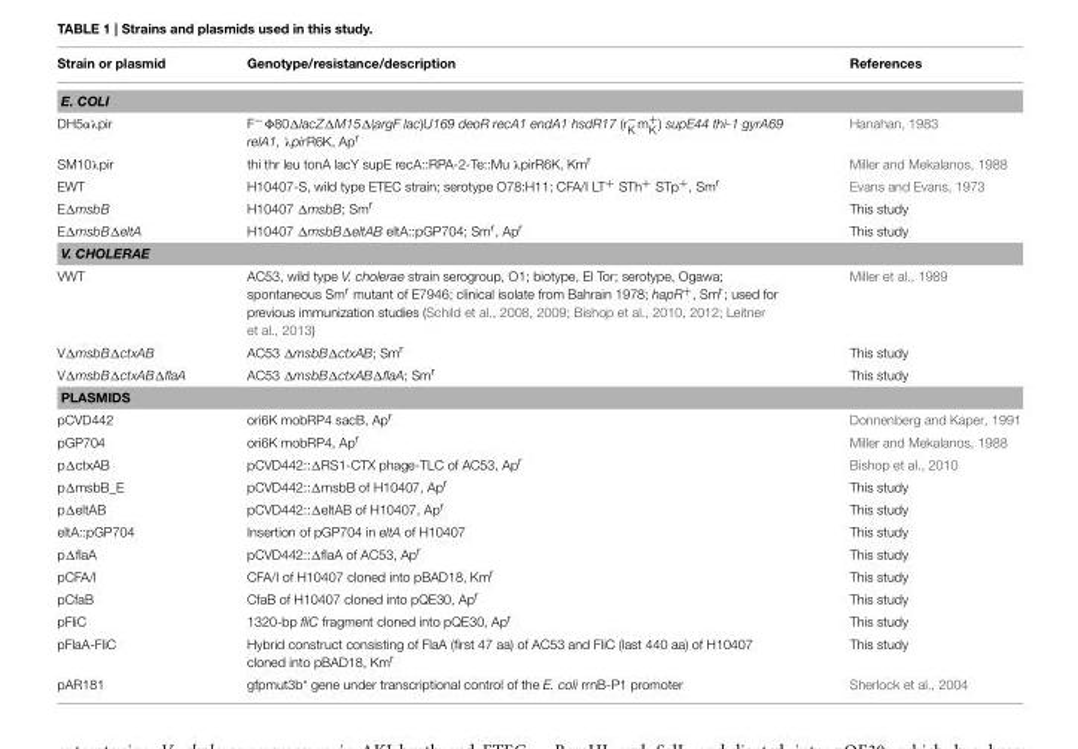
<table><thead><tr><td>Strain or plasmid</td><td>Genotype/resistance/description</td><td>References</td></tr></thead><tbody><tr><td colspan="3">E. COLI</td></tr><tr><td>DH5αλpir</td><td>F<sup>−</sup>Φ80ΔlacZΔM15Δ(argF lac)U169 deoR recA1 endA1 hsdR17 (r<sup>−</sup> <sub>K</sub> m<sup>+</sup> <sub>K</sub> ) supE44 thi-1 gyrA69 relA1, λpirR6K, Ap<sup>r</sup></td><td>Hanahan, 1983</td></tr><tr><td>SM10λpir</td><td>thi thr leu tonA lacY supE recA::RPA-2-Te::Mu λpirR6K, Km<sup>r</sup></td><td>Miller and Mekalanos, 1988</td></tr><tr><td>EWT</td><td>H10407-S, wild type ETEC strain; serotype O78:H11; CFA/I LT<sup>+</sup> STh<sup>+</sup> STp<sup>+</sup>, Sm<sup>r</sup></td><td>Evans and Evans, 1973</td></tr><tr><td>EΔmsbB</td><td>H10407 ΔmsbB; Sm<sup>r</sup></td><td>This study</td></tr><tr><td>EΔmsbBΔeltA</td><td>H10407 ΔmsbBΔeltAB eltA::pGP704; Sm<sup>r</sup>, Ap<sup>r</sup></td><td>This study</td></tr><tr><td colspan="3">V. CHOLERAE</td></tr><tr><td>VWT</td><td>AC53, wild type V. cholerae strain serogroup, O1; biotype, El Tor; serotype, Ogawa; spontaneous Sm<sup>r</sup> mutant of E7946; clinical isolate from Bahrain 1978; hapR<sup>+</sup>, Sm<sup>r</sup>; used for previous immunization studies (Schild et al., 2008, 2009; Bishop et al., 2010, 2012; Leitner et al., 2013)</td><td>Miller et al., 1989</td></tr><tr><td>VΔmsbBΔctxAB</td><td>AC53 ΔmsbBΔctxAB; Sm<sup>r</sup></td><td>This study</td></tr><tr><td>VΔmsbBΔctxABΔflaA</td><td>AC53 ΔmsbBΔctxABΔflaA; Sm<sup>r</sup></td><td>This study</td></tr><tr><td colspan="3">PLASMIDS</td></tr><tr><td>pCVD442</td><td>ori6K mobRP4 sacB, Ap<sup>r</sup></td><td>Donnenberg and Kaper, 1991</td></tr><tr><td>pGP704</td><td>ori6K mobRP4, Ap<sup>r</sup></td><td>Miller and Mekalanos, 1988</td></tr><tr><td>pΔctxAB</td><td>pCVD442::ΔRS1-CTX phage-TLC of AC53, Ap<sup>r</sup></td><td>Bishop et al., 2010</td></tr><tr><td>pΔmsbB_E</td><td>pCVD442::ΔmsbB of H10407, Ap<sup>r</sup></td><td>This study</td></tr><tr><td>pΔeltAB</td><td>pCVD442::ΔeltAB of H10407, Ap<sup>r</sup></td><td>This study</td></tr><tr><td>eltA::pGP704</td><td>Insertion of pGP704 in eltA of H10407</td><td>This study</td></tr><tr><td>pΔflaA</td><td>pCVD442::ΔflaA of AC53, Ap<sup>r</sup></td><td>This study</td></tr><tr><td>pCFA/I</td><td>CFA/I of H10407 cloned into pBAD18, Km<sup>r</sup></td><td>This study</td></tr><tr><td>pCfaB</td><td>CfaB of H10407 cloned into pQE30, Ap<sup>r</sup></td><td>This study</td></tr><tr><td>pFliC</td><td>1320-bp fliC fragment cloned into pQE30, Ap<sup>r</sup></td><td>This study</td></tr><tr><td>pFlaA-FliC</td><td>Hybrid construct consisting of FlaA (first 47 aa) of AC53 and FliC (last 440 aa) of H10407 cloned into pBAD18, Km<sup>r</sup></td><td>This study</td></tr><tr><td>pAR181</td><td>gfpmut3b* gene under transcriptional control of the E. coli rrnB-P1 promoter</td><td>Sherlock et al., 2004</td></tr></tbody></table>